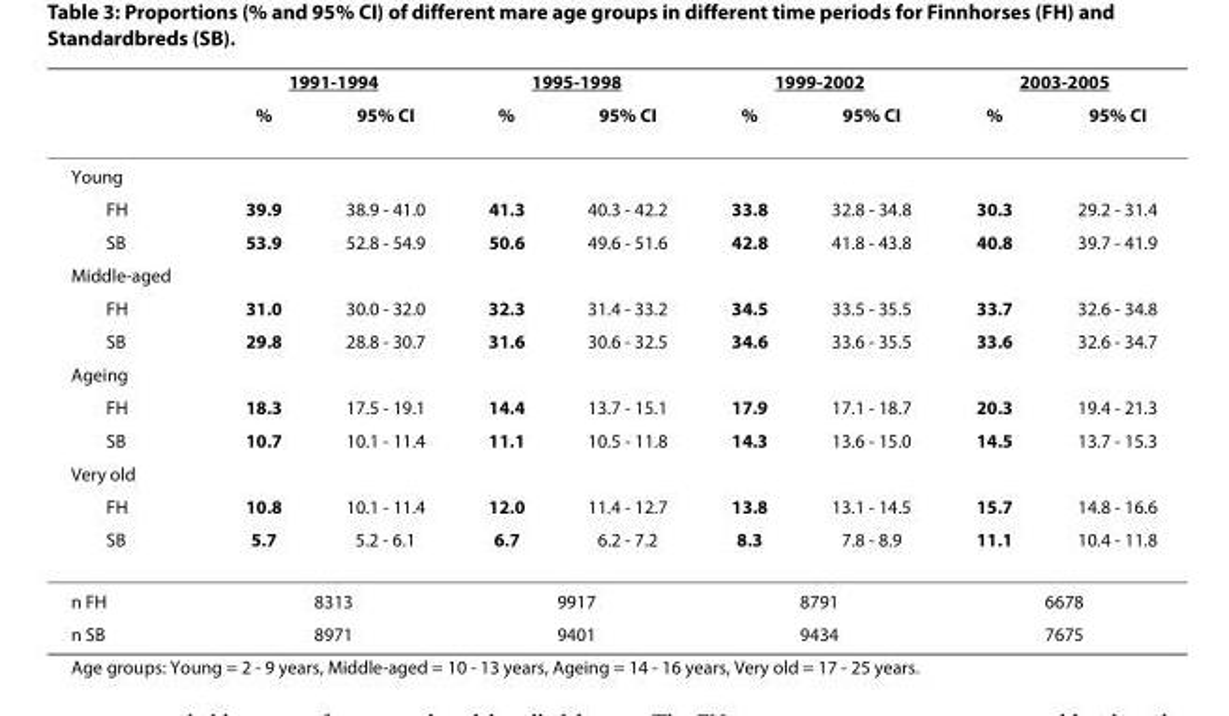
<table><thead><tr><td rowspan="2"></td><td colspan="2">1991-1994</td><td colspan="2">1995-1998</td><td colspan="2">1999-2002</td><td colspan="2">2003-2005</td></tr><tr><td>%</td><td>95% CI</td><td>%</td><td>95% CI</td><td>%</td><td>95% CI</td><td>%</td><td>95% CI</td></tr></thead><tbody><tr><td colspan="9">Young</td></tr><tr><td>FH</td><td>39.9</td><td>38.9 - 41.0</td><td>41.3</td><td>40.3 - 42.2</td><td>33.8</td><td>32.8 - 34.8</td><td>30.3</td><td>29.2 - 31.4</td></tr><tr><td>SB</td><td>53.9</td><td>52.8 - 54.9</td><td>50.6</td><td>49.6 - 51.6</td><td>42.8</td><td>41.8 - 43.8</td><td>40.8</td><td>39.7 - 41.9</td></tr><tr><td colspan="9">Middle-aged</td></tr><tr><td>FH</td><td>31.0</td><td>30.0 - 32.0</td><td>32.3</td><td>31.4 - 33.2</td><td>34.5</td><td>33.5 - 35.5</td><td>33.7</td><td>32.6 - 34.8</td></tr><tr><td>SB</td><td>29.8</td><td>28.8 - 30.7</td><td>31.6</td><td>30.6 - 32.5</td><td>34.6</td><td>33.6 - 35.5</td><td>33.6</td><td>32.6 - 34.7</td></tr><tr><td colspan="9">Ageing</td></tr><tr><td>FH</td><td>18.3</td><td>17.5 - 19.1</td><td>14.4</td><td>13.7 - 15.1</td><td>17.9</td><td>17.1 - 18.7</td><td>20.3</td><td>19.4 - 21.3</td></tr><tr><td>SB</td><td>10.7</td><td>10.1 - 11.4</td><td>11.1</td><td>10.5 - 11.8</td><td>14.3</td><td>13.6 - 15.0</td><td>14.5</td><td>13.7 - 15.3</td></tr><tr><td colspan="9">Very old</td></tr><tr><td>FH</td><td>10.8</td><td>10.1 - 11.4</td><td>12.0</td><td>11.4 - 12.7</td><td>13.8</td><td>13.1 - 14.5</td><td>15.7</td><td>14.8 - 16.6</td></tr><tr><td>SB</td><td>5.7</td><td>5.2 - 6.1</td><td>6.7</td><td>6.2 - 7.2</td><td>8.3</td><td>7.8 - 8.9</td><td>11.1</td><td>10.4 - 11.8</td></tr><tr><td>n FH</td><td colspan="2">8313</td><td colspan="2">9917</td><td colspan="2">8791</td><td colspan="2">6678</td></tr><tr><td>n SB</td><td colspan="2">8971</td><td colspan="2">9401</td><td colspan="2">9434</td><td colspan="2">7675</td></tr></tbody></table>